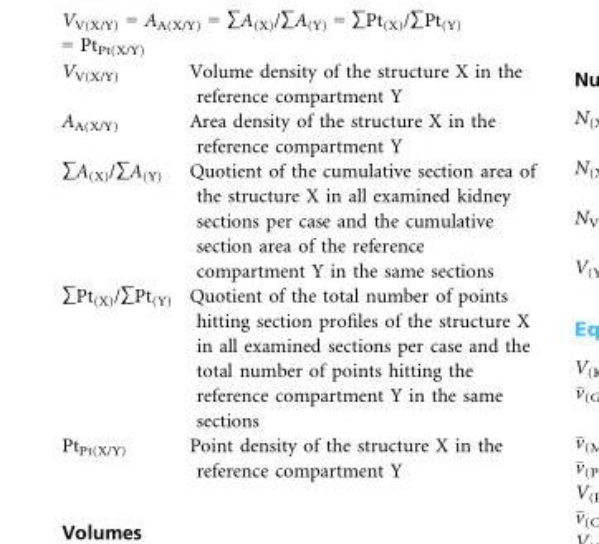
<table><tbody><tr><td>V<sub>V(X/Y)</sub></td><td>Volume density of the structure X in the reference compartment Y</td></tr><tr><td>A<sub>A(X/Y)</sub></td><td>Area density of the structure X in the reference compartment Y</td></tr><tr><td>∑A<sub>(X)</sub>/∑A<sub>(Y)</sub></td><td>Quotient of the cumulative section area of the structure X in all examined kidney sections per case and the cumulative section area of the reference compartment Y in the same sections</td></tr><tr><td>∑Pt<sub>(X)</sub>/∑Pt<sub>(Y)</sub></td><td>Quotient of the total number of points hitting section profiles of the structure X in all examined sections per case and the total number of points hitting the reference compartment Y in the same sections</td></tr><tr><td>Pt<sub>Pt(X/Y)</sub></td><td>Point density of the structure X in the reference compartment Y</td></tr></tbody></table>